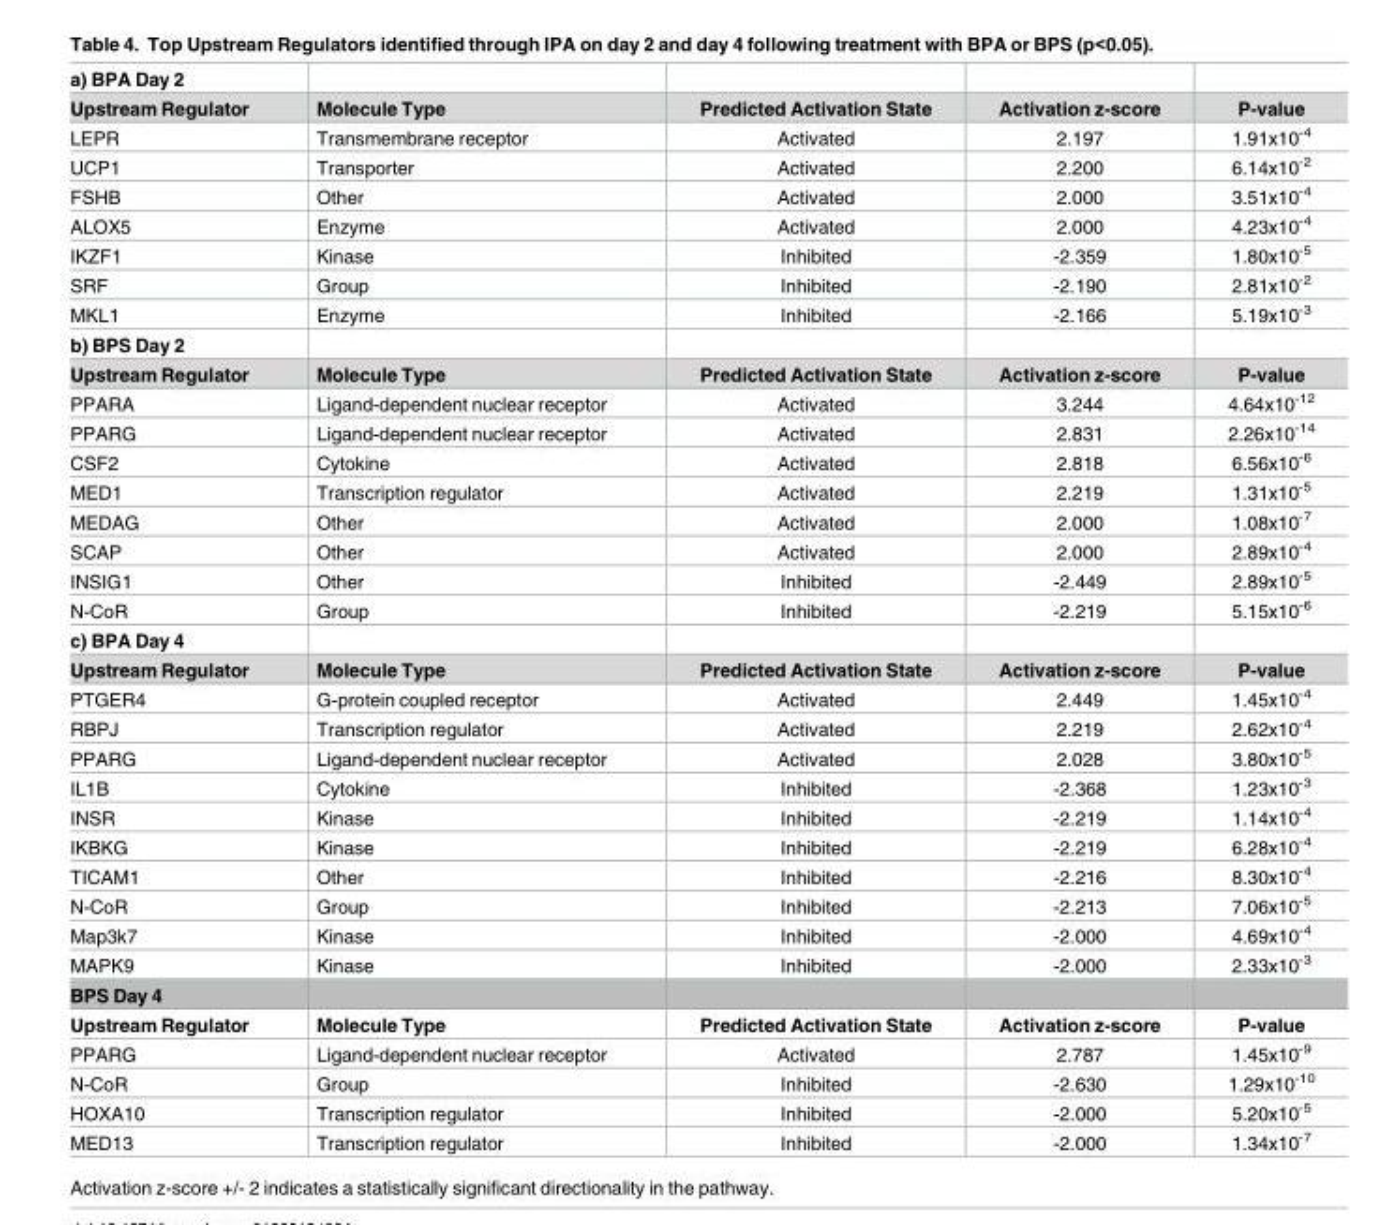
<table><tbody><tr><td colspan="5">a) BPA Day 2</td></tr><tr><td>Upstream Regulator</td><td>Molecule Type</td><td>Predicted Activation State</td><td>Activation z-score</td><td>P-value</td></tr><tr><td>LEPR</td><td>Transmembrane receptor</td><td>Activated</td><td>2.197</td><td>1.91x10<sup>-4</sup></td></tr><tr><td>UCP1</td><td>Transporter</td><td>Activated</td><td>2.200</td><td>6.14x10<sup>-2</sup></td></tr><tr><td>FSHB</td><td>Other</td><td>Activated</td><td>2.000</td><td>3.51x10<sup>-4</sup></td></tr><tr><td>ALOX5</td><td>Enzyme</td><td>Activated</td><td>2.000</td><td>4.23x10<sup>-4</sup></td></tr><tr><td>IKZF1</td><td>Kinase</td><td>Inhibited</td><td>-2.359</td><td>1.80x10<sup>-5</sup></td></tr><tr><td>SRF</td><td>Group</td><td>Inhibited</td><td>-2.190</td><td>2.81x10<sup>-2</sup></td></tr><tr><td>MKL1</td><td>Enzyme</td><td>Inhibited</td><td>-2.166</td><td>5.19x10<sup>-3</sup></td></tr><tr><td colspan="5">b) BPS Day 2</td></tr><tr><td>Upstream Regulator</td><td>Molecule Type</td><td>Predicted Activation State</td><td>Activation z-score</td><td>P-value</td></tr><tr><td>PPARA</td><td>Ligand-dependent nuclear receptor</td><td>Activated</td><td>3.244</td><td>4.64x10<sup>-12</sup></td></tr><tr><td>PPARG</td><td>Ligand-dependent nuclear receptor</td><td>Activated</td><td>2.831</td><td>2.26x10<sup>-14</sup></td></tr><tr><td>CSF2</td><td>Cytokine</td><td>Activated</td><td>2.818</td><td>6.56x10<sup>-6</sup></td></tr><tr><td>MED1</td><td>Transcription regulator</td><td>Activated</td><td>2.219</td><td>1.31x10<sup>-5</sup></td></tr><tr><td>MEDAG</td><td>Other</td><td>Activated</td><td>2.000</td><td>1.08x10<sup>-7</sup></td></tr><tr><td>SCAP</td><td>Other</td><td>Activated</td><td>2.000</td><td>2.89x10<sup>-4</sup></td></tr><tr><td>INSIG1</td><td>Other</td><td>Inhibited</td><td>-2.449</td><td>2.89x10<sup>-5</sup></td></tr><tr><td>N-CoR</td><td>Group</td><td>Inhibited</td><td>-2.219</td><td>5.15x10<sup>-6</sup></td></tr><tr><td colspan="5">c) BPA Day 4</td></tr><tr><td>Upstream Regulator</td><td>Molecule Type</td><td>Predicted Activation State</td><td>Activation z-score</td><td>P-value</td></tr><tr><td>PTGER4</td><td>G-protein coupled receptor</td><td>Activated</td><td>2.449</td><td>1.45x10<sup>-4</sup></td></tr><tr><td>RBPJ</td><td>Transcription regulator</td><td>Activated</td><td>2.219</td><td>2.62x10<sup>-4</sup></td></tr><tr><td>PPARG</td><td>Ligand-dependent nuclear receptor</td><td>Activated</td><td>2.028</td><td>3.80x10<sup>-5</sup></td></tr><tr><td>IL1B</td><td>Cytokine</td><td>Inhibited</td><td>-2.368</td><td>1.23x10<sup>-3</sup></td></tr><tr><td>INSR</td><td>Kinase</td><td>Inhibited</td><td>-2.219</td><td>1.14x10<sup>-4</sup></td></tr><tr><td>IKBKG</td><td>Kinase</td><td>Inhibited</td><td>-2.219</td><td>6.28x10<sup>-4</sup></td></tr><tr><td>TICAM1</td><td>Other</td><td>Inhibited</td><td>-2.216</td><td>8.30x10<sup>-4</sup></td></tr><tr><td>N-CoR</td><td>Group</td><td>Inhibited</td><td>-2.213</td><td>7.06x10<sup>-5</sup></td></tr><tr><td>Map3k7</td><td>Kinase</td><td>Inhibited</td><td>-2.000</td><td>4.69x10<sup>-4</sup></td></tr><tr><td>MAPK9</td><td>Kinase</td><td>Inhibited</td><td>-2.000</td><td>2.33x10<sup>-3</sup></td></tr><tr><td colspan="5">BPS Day 4</td></tr><tr><td>Upstream Regulator</td><td>Molecule Type</td><td>Predicted Activation State</td><td>Activation z-score</td><td>P-value</td></tr><tr><td>PPARG</td><td>Ligand-dependent nuclear receptor</td><td>Activated</td><td>2.787</td><td>1.45x10<sup>-9</sup></td></tr><tr><td>N-CoR</td><td>Group</td><td>Inhibited</td><td>-2.630</td><td>1.29x10<sup>-10</sup></td></tr><tr><td>HOXA10</td><td>Transcription regulator</td><td>Inhibited</td><td>-2.000</td><td>5.20x10<sup>-5</sup></td></tr><tr><td>MED13</td><td>Transcription regulator</td><td>Inhibited</td><td>-2.000</td><td>1.34x10<sup>-7</sup></td></tr></tbody></table>